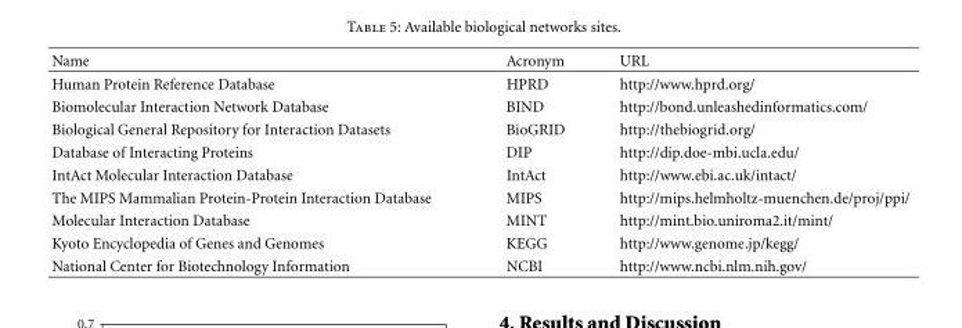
<table><thead><tr><td>Name</td><td>Acronym</td><td>URL</td></tr></thead><tbody><tr><td>Human Protein Reference Database</td><td>HPRD</td><td>http://www.hprd.org/</td></tr><tr><td>Biomolecular Interaction Network Database</td><td>BIND</td><td>http://bond.unleashedinformatics.com/</td></tr><tr><td>Biological General Repository for Interaction Datasets</td><td>BioGRID</td><td>http://thebiogrid.org/</td></tr><tr><td>Database of Interacting Proteins</td><td>DIP</td><td>http://dip.doe-mbi.ucla.edu/</td></tr><tr><td>IntAct Molecular Interaction Database</td><td>IntAct</td><td>http://www.ebi.ac.uk/intact/</td></tr><tr><td>The MIPS Mammalian Protein-Protein Interaction Database</td><td>MIPS</td><td>http://mips.helmholtz-muenchen.de/proj/ppi/</td></tr><tr><td>Molecular Interaction Database</td><td>MINT</td><td>http://mint.bio.uniroma2.it/mint/</td></tr><tr><td>Kyoto Encyclopedia of Genes and Genomes</td><td>KEGG</td><td>http://www.genome.jp/kegg/</td></tr><tr><td>National Center for Biotechnology Information</td><td>NCBI</td><td>http://www.ncbi.nlm.nih.gov/</td></tr></tbody></table>